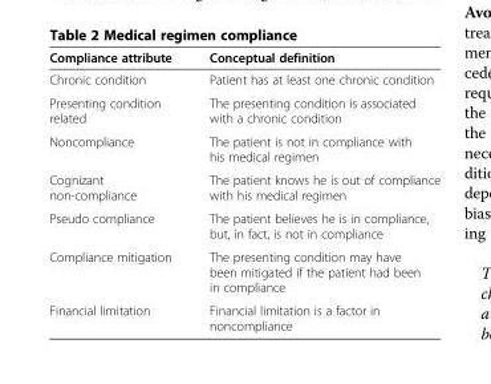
<table><thead><tr><td>Compliance attribute</td><td>Conceptual definition</td></tr></thead><tbody><tr><td>Chronic condition</td><td>Patient has at least one chronic condition</td></tr><tr><td>Presenting condition related</td><td>The presenting condition is associated with a chronic condition</td></tr><tr><td>Noncompliance</td><td>The patient is not in compliance with his medical regimen</td></tr><tr><td>Cognizant non-compliance</td><td>The patient knows he is out of compliance with his medical regimen</td></tr><tr><td>Pseudo compliance</td><td>The patient believes he is in compliance, but, in fact, is not in compliance</td></tr><tr><td>Compliance mitigation</td><td>The presenting condition may have been mitigated if the patient had been in compliance</td></tr><tr><td>Financial limitation</td><td>Financial limitation is a factor in noncompliance</td></tr></tbody></table>